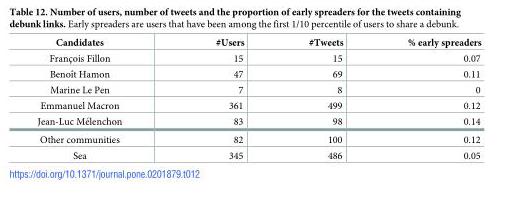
<table><thead><tr><td>Candidates</td><td>#Users</td><td>#Tweets</td><td>% early spreaders</td></tr></thead><tbody><tr><td>Franc¸ois Fillon</td><td>15</td><td>15</td><td>0.07</td></tr><tr><td>Benoıˆt Hamon</td><td>47</td><td>69</td><td>0.11</td></tr><tr><td>Marine Le Pen</td><td>7</td><td>8</td><td>0</td></tr><tr><td>Emmanuel Macron</td><td>361</td><td>499</td><td>0.12</td></tr><tr><td>Jean-Luc Me´lenchon</td><td>83</td><td>98</td><td>0.14</td></tr><tr><td>Other communities</td><td>82</td><td>100</td><td>0.12</td></tr><tr><td>Sea</td><td>345</td><td>486</td><td>0.05</td></tr></tbody></table>